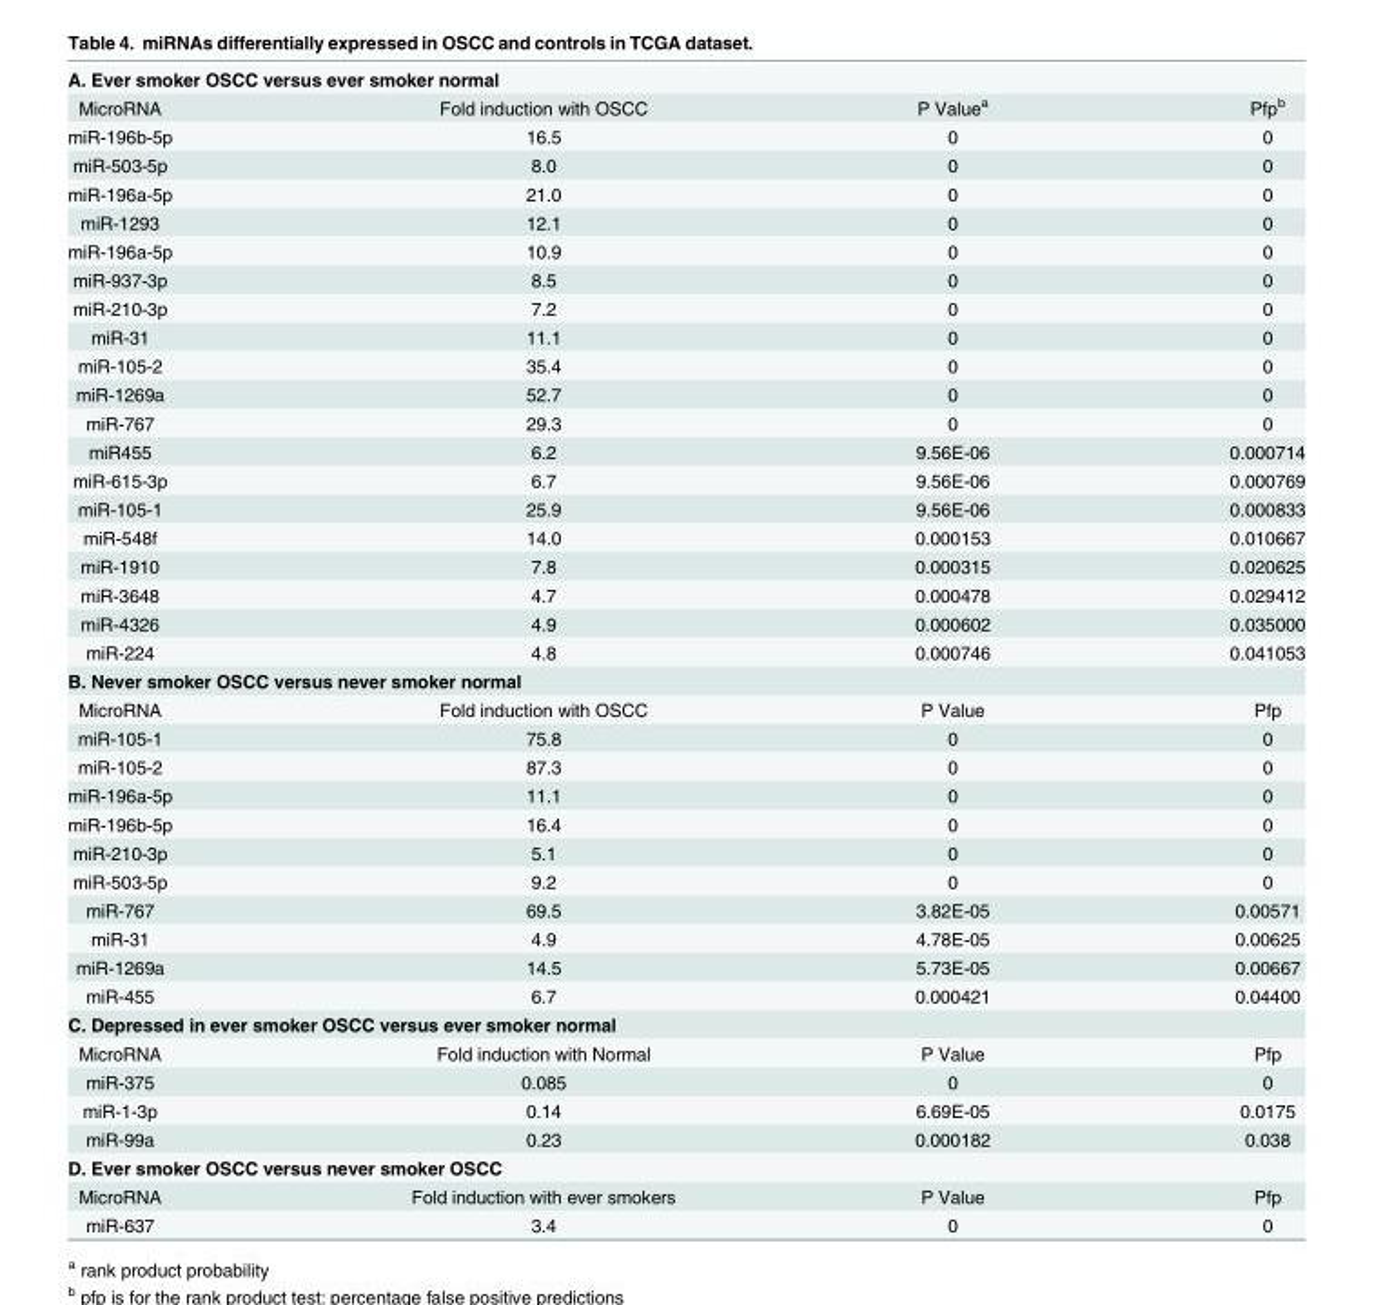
<table><tbody><tr><td colspan="4">A. Ever smoker OSCC versus ever smoker normal</td></tr><tr><td>MicroRNA</td><td>Fold induction with OSCC</td><td>P Value<sup>a</sup></td><td>Pfp<sup>b</sup></td></tr><tr><td>miR-196b-5p</td><td>16.5</td><td>0</td><td>0</td></tr><tr><td>miR-503-5p</td><td>8.0</td><td>0</td><td>0</td></tr><tr><td>miR-196a-5p</td><td>21.0</td><td>0</td><td>0</td></tr><tr><td>miR-1293</td><td>12.1</td><td>0</td><td>0</td></tr><tr><td>miR-196a-5p</td><td>10.9</td><td>0</td><td>0</td></tr><tr><td>miR-937-3p</td><td>8.5</td><td>0</td><td>0</td></tr><tr><td>miR-210-3p</td><td>7.2</td><td>0</td><td>0</td></tr><tr><td>miR-31</td><td>11.1</td><td>0</td><td>0</td></tr><tr><td>miR-105-2</td><td>35.4</td><td>0</td><td>0</td></tr><tr><td>miR-1269a</td><td>52.7</td><td>0</td><td>0</td></tr><tr><td>miR-767</td><td>29.3</td><td>0</td><td>0</td></tr><tr><td>miR455</td><td>6.2</td><td>9.56E-06</td><td>0.000714</td></tr><tr><td>miR-615-3p</td><td>6.7</td><td>9.56E-06</td><td>0.000769</td></tr><tr><td>miR-105-1</td><td>25.9</td><td>9.56E-06</td><td>0.000833</td></tr><tr><td>miR-548f</td><td>14.0</td><td>0.000153</td><td>0.010667</td></tr><tr><td>miR-1910</td><td>7.8</td><td>0.000315</td><td>0.020625</td></tr><tr><td>miR-3648</td><td>4.7</td><td>0.000478</td><td>0.029412</td></tr><tr><td>miR-4326</td><td>4.9</td><td>0.000602</td><td>0.035000</td></tr><tr><td>miR-224</td><td>4.8</td><td>0.000746</td><td>0.041053</td></tr><tr><td colspan="4">B. Never smoker OSCC versus never smoker normal</td></tr><tr><td>MicroRNA</td><td>Fold induction with OSCC</td><td>P Value</td><td>Pfp</td></tr><tr><td>miR-105-1</td><td>75.8</td><td>0</td><td>0</td></tr><tr><td>miR-105-2</td><td>87.3</td><td>0</td><td>0</td></tr><tr><td>miR-196a-5p</td><td>11.1</td><td>0</td><td>0</td></tr><tr><td>miR-196b-5p</td><td>16.4</td><td>0</td><td>0</td></tr><tr><td>miR-210-3p</td><td>5.1</td><td>0</td><td>0</td></tr><tr><td>miR-503-5p</td><td>9.2</td><td>0</td><td>0</td></tr><tr><td>miR-767</td><td>69.5</td><td>3.82E-05</td><td>0.00571</td></tr><tr><td>miR-31</td><td>4.9</td><td>4.78E-05</td><td>0.00625</td></tr><tr><td>miR-1269a</td><td>14.5</td><td>5.73E-05</td><td>0.00667</td></tr><tr><td>miR-455</td><td>6.7</td><td>0.000421</td><td>0.04400</td></tr><tr><td colspan="4">C. Depressed in ever smoker OSCC versus ever smoker normal</td></tr><tr><td>MicroRNA</td><td>Fold induction with Normal</td><td>P Value</td><td>Pfp</td></tr><tr><td>miR-375</td><td>0.085</td><td>0</td><td>0</td></tr><tr><td>miR-1-3p</td><td>0.14</td><td>6.69E-05</td><td>0.0175</td></tr><tr><td>miR-99a</td><td>0.23</td><td>0.000182</td><td>0.038</td></tr><tr><td colspan="4">D. Ever smoker OSCC versus never smoker OSCC</td></tr><tr><td>MicroRNA</td><td>Fold induction with ever smokers</td><td>P Value</td><td>Pfp</td></tr><tr><td>miR-637</td><td>3.4</td><td>0</td><td>0</td></tr></tbody></table>